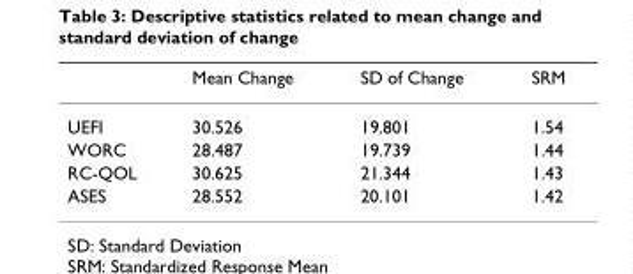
<table><thead><tr><td></td><td>Mean Change</td><td>SD of Change</td><td>SRM</td></tr></thead><tbody><tr><td>UEFI</td><td>30.526</td><td>19.801</td><td>1.54</td></tr><tr><td>WORC</td><td>28.487</td><td>19.739</td><td>1.44</td></tr><tr><td>RC-QOL</td><td>30.625</td><td>21.344</td><td>1.43</td></tr><tr><td>ASES</td><td>28.552</td><td>20.101</td><td>1.42</td></tr></tbody></table>